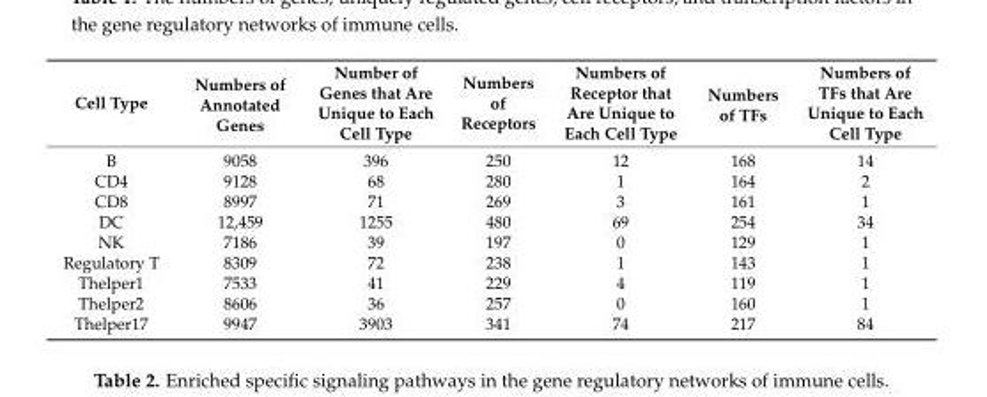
<table><thead><tr><td>Cell Type</td><td>Numbers of Annotated Genes</td><td>Number of Genes that Are Unique to Each Cell Type</td><td>Numbers of Receptors</td><td>Numbers of Receptor that Are Unique to Each Cell Type</td><td>Numbers of TFs</td><td>Numbers of TFs that Are Unique to Each Cell Type</td></tr></thead><tbody><tr><td>B</td><td>9058</td><td>396</td><td>250</td><td>12</td><td>168</td><td>14</td></tr><tr><td>CD4</td><td>9128</td><td>68</td><td>280</td><td>1</td><td>164</td><td>2</td></tr><tr><td>CD8</td><td>8997</td><td>71</td><td>269</td><td>3</td><td>161</td><td>1</td></tr><tr><td>DC</td><td>12,459</td><td>1255</td><td>480</td><td>69</td><td>254</td><td>34</td></tr><tr><td>NK</td><td>7186</td><td>39</td><td>197</td><td>0</td><td>129</td><td>1</td></tr><tr><td>Regulatory T</td><td>8309</td><td>72</td><td>238</td><td>1</td><td>143</td><td>1</td></tr><tr><td>Thelper1</td><td>7533</td><td>41</td><td>229</td><td>4</td><td>119</td><td>1</td></tr><tr><td>Thelper2</td><td>8606</td><td>36</td><td>257</td><td>0</td><td>160</td><td>1</td></tr><tr><td>Thelper17</td><td>9947</td><td>3903</td><td>341</td><td>74</td><td>217</td><td>84</td></tr></tbody></table>